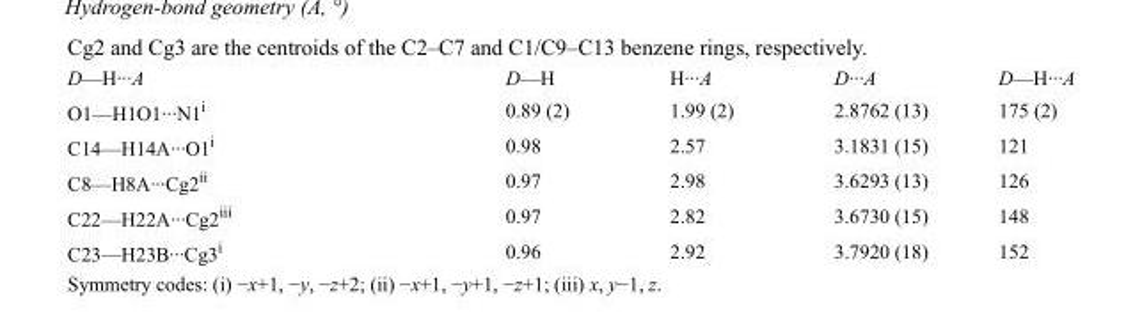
<table><tbody><tr><td>D—H···A</td><td>D—H</td><td>H···A</td><td>D···A</td><td>D—H···A</td></tr><tr><td>O1—H1O1···N1<sup>i</sup></td><td>0.89 (2)</td><td>1.99 (2)</td><td>2.8762 (13)</td><td>175 (2)</td></tr><tr><td>C14—H14A···O1<sup>i</sup></td><td>0.98</td><td>2.57</td><td>3.1831 (15)</td><td>121</td></tr><tr><td>C8—H8A···Cg2<sup>ii</sup></td><td>0.97</td><td>2.98</td><td>3.6293 (13)</td><td>126</td></tr><tr><td>C22—H22A···Cg2<sup>iii</sup></td><td>0.97</td><td>2.82</td><td>3.6730 (15)</td><td>148</td></tr><tr><td>C23—H23B···Cg3<sup>i</sup></td><td>0.96</td><td>2.92</td><td>3.7920 (18)</td><td>152</td></tr></tbody></table>